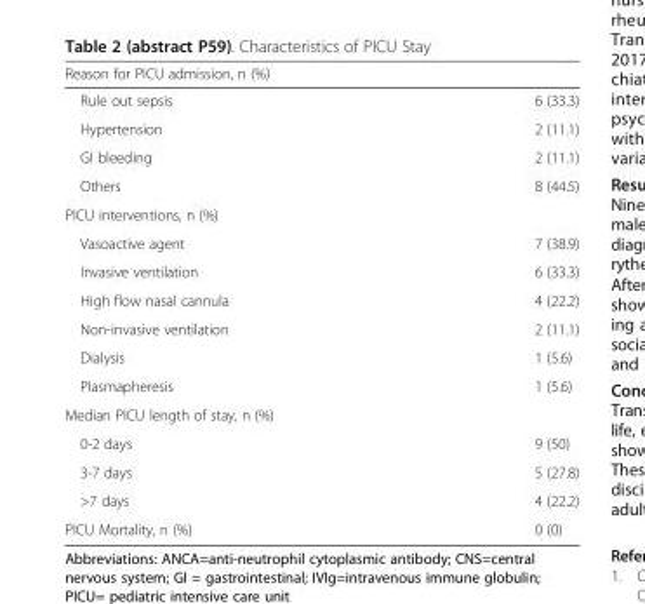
<table><thead><tr><td>Reason for PICU admission, n (%)</td><td></td></tr></thead><tbody><tr><td>Rule out sepsis</td><td>6 (33.3)</td></tr><tr><td>Hypertension</td><td>2 (11.1)</td></tr><tr><td>GI bleeding</td><td>2 (11.1)</td></tr><tr><td>Others</td><td>8 (44.5)</td></tr><tr><td colspan="2">PICU interventions, n (%)</td></tr><tr><td>Vasoactive agent</td><td>7 (38.9)</td></tr><tr><td>Invasive ventilation</td><td>6 (33.3)</td></tr><tr><td>High flow nasal cannula</td><td>4 (22.2)</td></tr><tr><td>Non-invasive ventilation</td><td>2 (11.1)</td></tr><tr><td>Dialysis</td><td>1 (5.6)</td></tr><tr><td>Plasmapheresis</td><td>1 (5.6)</td></tr><tr><td colspan="2">Median PICU length of stay, n (%)</td></tr><tr><td>0-2 days</td><td>9 (50)</td></tr><tr><td>3-7 days</td><td>5 (27.8)</td></tr><tr><td>&gt;7 days</td><td>4 (22.2)</td></tr><tr><td>PICU Mortality, n (%)</td><td>0 (0)</td></tr></tbody></table>